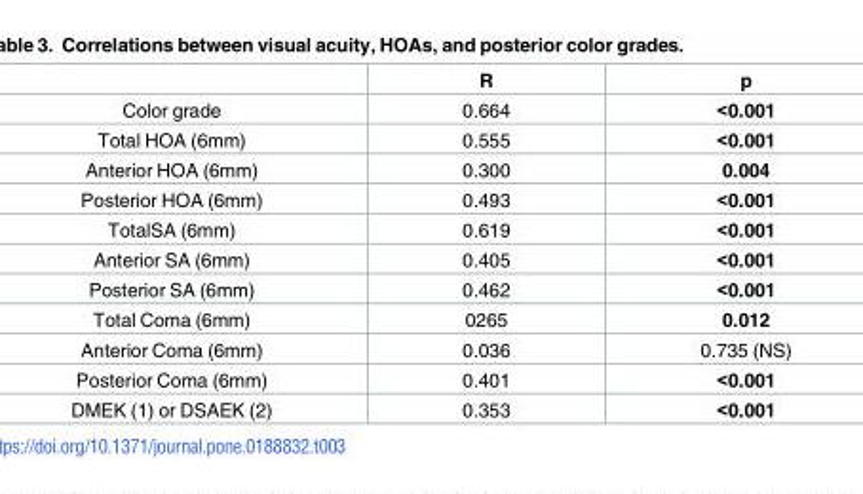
<table><thead><tr><td></td><td>R</td><td>p</td></tr></thead><tbody><tr><td>Color grade</td><td>0.664</td><td>&lt;0.001</td></tr><tr><td>Total HOA (6mm)</td><td>0.555</td><td>&lt;0.001</td></tr><tr><td>Anterior HOA (6mm)</td><td>0.300</td><td>0.004</td></tr><tr><td>Posterior HOA (6mm)</td><td>0.493</td><td>&lt;0.001</td></tr><tr><td>TotalSA (6mm)</td><td>0.619</td><td>&lt;0.001</td></tr><tr><td>Anterior SA (6mm)</td><td>0.405</td><td>&lt;0.001</td></tr><tr><td>Posterior SA (6mm)</td><td>0.462</td><td>&lt;0.001</td></tr><tr><td>Total Coma (6mm)</td><td>0265</td><td>0.012</td></tr><tr><td>Anterior Coma (6mm)</td><td>0.036</td><td>0.735 (NS)</td></tr><tr><td>Posterior Coma (6mm)</td><td>0.401</td><td>&lt;0.001</td></tr><tr><td>DMEK (1) or DSAEK (2)</td><td>0.353</td><td>&lt;0.001</td></tr></tbody></table>